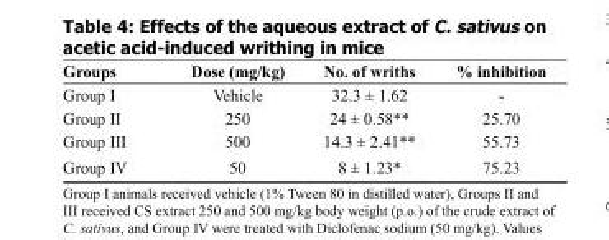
<table><thead><tr><td>Groups</td><td>Dose (mg/kg)</td><td>No. of wriths</td><td>% inhibition</td></tr></thead><tbody><tr><td>Group I</td><td>Vehicle</td><td>32.3 ± 1.62</td><td>-</td></tr><tr><td>Group II</td><td>250</td><td>24 ± 0.58**</td><td>25.70</td></tr><tr><td>Group III</td><td>500</td><td>14.3 ± 2.41**</td><td>55.73</td></tr><tr><td>Group IV</td><td>50</td><td>8 ± 1.23*</td><td>75.23</td></tr></tbody></table>